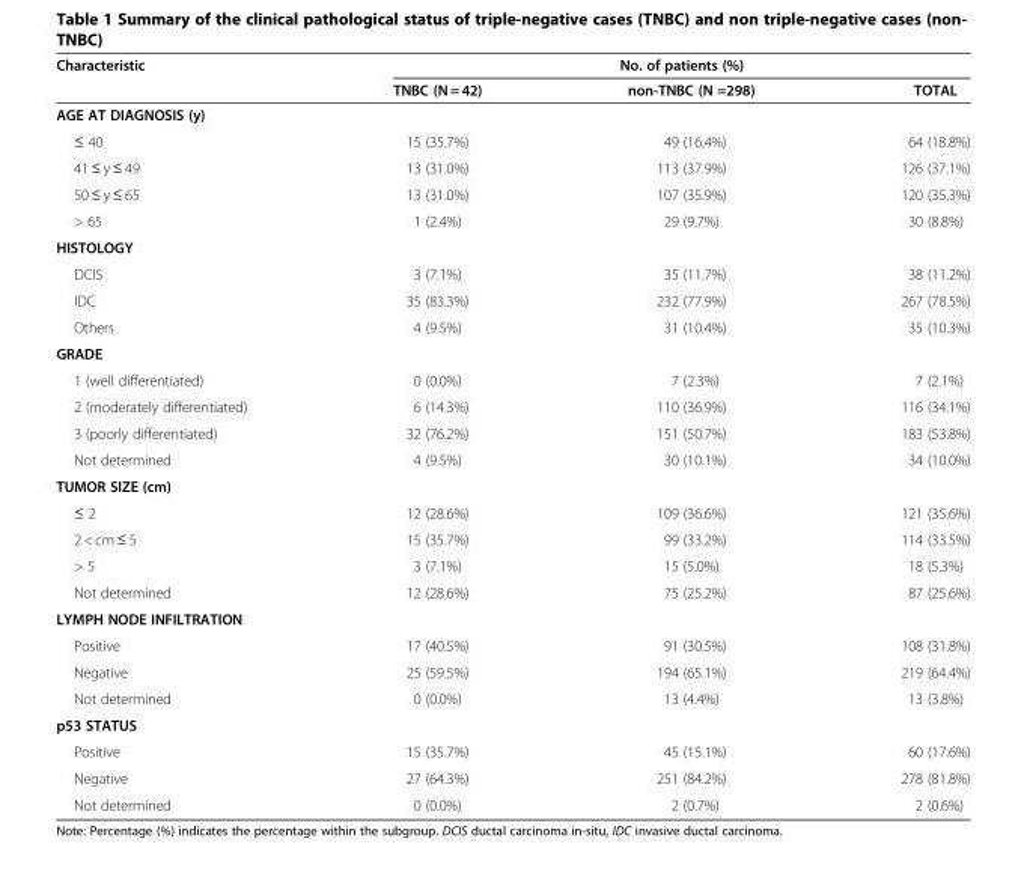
<table><thead><tr><td rowspan="2">Characteristic</td><td rowspan="2">TNBC (N = 42)</td><td rowspan="2">No. of patients (%) non-TNBC (N =298)</td><td rowspan="2">TOTAL</td></tr><tr></tr></thead><tbody><tr><td colspan="4">AGE AT DIAGNOSIS (y)</td></tr><tr><td>≤ 40</td><td>15 (35.7%)</td><td>49 (16.4%)</td><td>64 (18.8%)</td></tr><tr><td>41 ≤ y ≤ 49</td><td>13 (31.0%)</td><td>113 (37.9%)</td><td>126 (37.1%)</td></tr><tr><td>50 ≤ y ≤ 65</td><td>13 (31.0%)</td><td>107 (35.9%)</td><td>120 (35.3%)</td></tr><tr><td>&gt; 65</td><td>1 (2.4%)</td><td>29 (9.7%)</td><td>30 (8.8%)</td></tr><tr><td colspan="4">HISTOLOGY</td></tr><tr><td>DCIS</td><td>3 (7.1%)</td><td>35 (11.7%)</td><td>38 (11.2%)</td></tr><tr><td>IDC</td><td>35 (83.3%)</td><td>232 (77.9%)</td><td>267 (78.5%)</td></tr><tr><td>Others</td><td>4 (9.5%)</td><td>31 (10.4%)</td><td>35 (10.3%)</td></tr><tr><td colspan="4">GRADE</td></tr><tr><td>1 (well differentiated)</td><td>0 (0.0%)</td><td>7 (2.3%)</td><td>7 (2.1%)</td></tr><tr><td>2 (moderately differentiated)</td><td>6 (14.3%)</td><td>110 (36.9%)</td><td>116 (34.1%)</td></tr><tr><td>3 (poorly differentiated)</td><td>32 (76.2%)</td><td>151 (50.7%)</td><td>183 (53.8%)</td></tr><tr><td>Not determined</td><td>4 (9.5%)</td><td>30 (10.1%)</td><td>34 (10.0%)</td></tr><tr><td colspan="4">TUMOR SIZE (cm)</td></tr><tr><td>≤ 2</td><td>12 (28.6%)</td><td>109 (36.6%)</td><td>121 (35.6%)</td></tr><tr><td>2 &lt; cm ≤ 5</td><td>15 (35.7%)</td><td>99 (33.2%)</td><td>114 (33.5%)</td></tr><tr><td>&gt; 5</td><td>3 (7.1%)</td><td>15 (5.0%)</td><td>18 (5.3%)</td></tr><tr><td>Not determined</td><td>12 (28.6%)</td><td>75 (25.2%)</td><td>87 (25.6%)</td></tr><tr><td colspan="4">LYMPH NODE INFILTRATION</td></tr><tr><td>Positive</td><td>17 (40.5%)</td><td>91 (30.5%)</td><td>108 (31.8%)</td></tr><tr><td>Negative</td><td>25 (59.5%)</td><td>194 (65.1%)</td><td>219 (64.4%)</td></tr><tr><td>Not determined</td><td>0 (0.0%)</td><td>13 (4.4%)</td><td>13 (3.8%)</td></tr><tr><td colspan="4">p53 STATUS</td></tr><tr><td>Positive</td><td>15 (35.7%)</td><td>45 (15.1%)</td><td>60 (17.6%)</td></tr><tr><td>Negative</td><td>27 (64.3%)</td><td>251 (84.2%)</td><td>278 (81.8%)</td></tr><tr><td>Not determined</td><td>0 (0.0%)</td><td>2 (0.7%)</td><td>2 (0.6%)</td></tr></tbody></table>